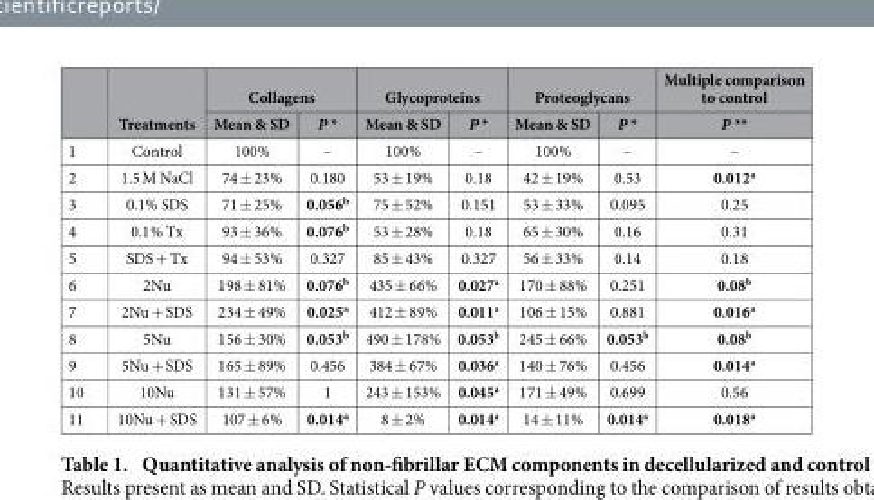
<table><thead><tr><td rowspan="2"></td><td rowspan="2">Treatments</td><td colspan="2">Collagens</td><td colspan="2">Glycoproteins</td><td colspan="2">Proteoglycans</td><td rowspan="2">Multiple comparison to control P **</td></tr><tr><td>Mean &amp; SD</td><td>P *</td><td>Mean &amp; SD</td><td>P *</td><td>Mean &amp; SD</td><td>P *</td></tr></thead><tbody><tr><td>1</td><td>Control</td><td>100%</td><td>–</td><td>100%</td><td>–</td><td>100%</td><td>–</td><td>–</td></tr><tr><td>2</td><td>1.5 M NaCl</td><td>74 ± 23%</td><td>0.180</td><td>53 ± 19%</td><td>0.18</td><td>42 ± 19%</td><td>0.53</td><td>0.012<sup>a</sup></td></tr><tr><td>3</td><td>0.1% SDS</td><td>71 ± 25%</td><td>0.056<sup>b</sup></td><td>75 ± 52%</td><td>0.151</td><td>53 ± 33%</td><td>0.095</td><td>0.25</td></tr><tr><td>4</td><td>0.1% Tx</td><td>93 ± 36%</td><td>0.076<sup>b</sup></td><td>53 ± 28%</td><td>0.18</td><td>65 ± 30%</td><td>0.16</td><td>0.31</td></tr><tr><td>5</td><td>SDS + Tx</td><td>94 ± 53%</td><td>0.327</td><td>85 ± 43%</td><td>0.327</td><td>56 ± 33%</td><td>0.14</td><td>0.18</td></tr><tr><td>6</td><td>2Nu</td><td>198 ± 81%</td><td>0.076<sup>b</sup></td><td>435 ± 66%</td><td>0.027<sup>a</sup></td><td>170 ± 88%</td><td>0.251</td><td>0.08<sup>b</sup></td></tr><tr><td>7</td><td>2Nu + SDS</td><td>234 ± 49%</td><td>0.025<sup>a</sup></td><td>412 ± 89%</td><td>0.011<sup>a</sup></td><td>106 ± 15%</td><td>0.881</td><td>0.016<sup>a</sup></td></tr><tr><td>8</td><td>5Nu</td><td>156 ± 30%</td><td>0.053<sup>b</sup></td><td>490 ± 178%</td><td>0.053<sup>b</sup></td><td>245 ± 66%</td><td>0.053<sup>b</sup></td><td>0.08<sup>b</sup></td></tr><tr><td>9</td><td>5Nu + SDS</td><td>165 ± 89%</td><td>0.456</td><td>384 ± 67%</td><td>0.036<sup>a</sup></td><td>140 ± 76%</td><td>0.456</td><td>0.014<sup>a</sup></td></tr><tr><td>10</td><td>10Nu</td><td>131 ± 57%</td><td>1</td><td>243 ± 153%</td><td>0.045<sup>a</sup></td><td>171 ± 49%</td><td>0.699</td><td>0.56</td></tr><tr><td>11</td><td>10Nu + SDS</td><td>107 ± 6%</td><td>0.014<sup>a</sup></td><td>8 ± 2%</td><td>0.014<sup>a</sup></td><td>14 ± 11%</td><td>0.014<sup>a</sup></td><td>0.018<sup>a</sup></td></tr></tbody></table>